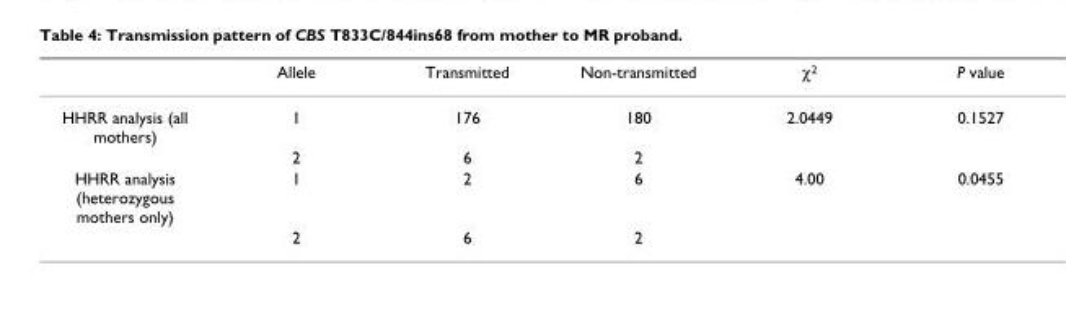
<table><thead><tr><td></td><td>Allele</td><td>Transmitted</td><td>Non-transmitted</td><td>χ<sup>2</sup></td><td>P value</td></tr></thead><tbody><tr><td rowspan="2">HHRR analysis (all mothers)</td><td>1</td><td>176</td><td>180</td><td>2.0449</td><td>0.1527</td></tr><tr><td>2</td><td>6</td><td>2</td><td></td><td></td></tr><tr><td rowspan="2">HHRR analysis (heterozygous mothers only)</td><td>1</td><td>2</td><td>6</td><td>4.00</td><td>0.0455</td></tr><tr><td>2</td><td>6</td><td>2</td><td></td><td></td></tr></tbody></table>